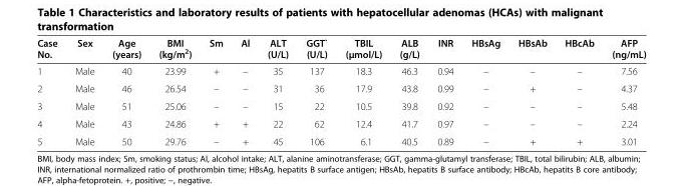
<table><thead><tr><td>Case No.</td><td>Sex</td><td>Age (years)</td><td>BMI (kg/m<sup>2</sup>)</td><td>Sm</td><td>Al</td><td>ALT (U/L)</td><td>GGT` (U/L)</td><td>TBIL (μmol/L)</td><td>ALB (g/L)</td><td>INR</td><td>HBsAg</td><td>HBsAb</td><td>HBcAb</td><td>AFP (ng/mL)</td></tr></thead><tbody><tr><td>1</td><td>Male</td><td>40</td><td>23.99</td><td>+</td><td>–</td><td>35</td><td>137</td><td>18.3</td><td>46.3</td><td>0.94</td><td>–</td><td>–</td><td>–</td><td>7.56</td></tr><tr><td>2</td><td>Male</td><td>46</td><td>26.54</td><td>–</td><td>–</td><td>31</td><td>36</td><td>17.9</td><td>43.8</td><td>0.99</td><td>–</td><td>+</td><td>–</td><td>4.37</td></tr><tr><td>3</td><td>Male</td><td>51</td><td>25.06</td><td>–</td><td>–</td><td>15</td><td>22</td><td>10.5</td><td>39.8</td><td>0.92</td><td>–</td><td>–</td><td>–</td><td>5.48</td></tr><tr><td>4</td><td>Male</td><td>43</td><td>24.86</td><td>+</td><td>+</td><td>22</td><td>62</td><td>12.4</td><td>41.7</td><td>0.97</td><td>–</td><td>–</td><td>–</td><td>2.24</td></tr><tr><td>5</td><td>Male</td><td>50</td><td>29.76</td><td>–</td><td>+</td><td>45</td><td>106</td><td>6.1</td><td>40.5</td><td>0.89</td><td>–</td><td>+</td><td>+</td><td>3.01</td></tr></tbody></table>